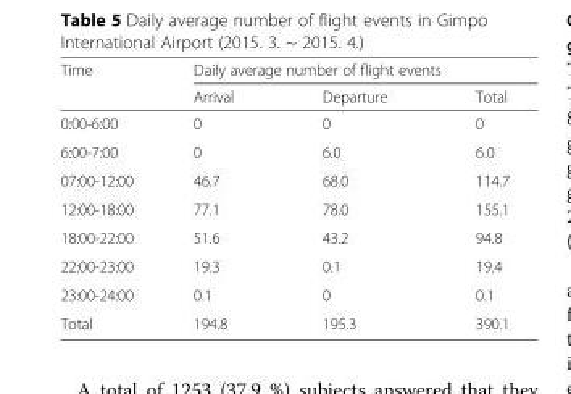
<table><thead><tr><td rowspan="2">Time</td><td colspan="3">Daily average number of flight events</td></tr><tr><td>Arrival</td><td>Departure</td><td>Total</td></tr></thead><tbody><tr><td>0:00-6:00</td><td>0</td><td>0</td><td>0</td></tr><tr><td>6:00-7:00</td><td>0</td><td>6.0</td><td>6.0</td></tr><tr><td>07:00-12:00</td><td>46.7</td><td>68.0</td><td>114.7</td></tr><tr><td>12:00-18:00</td><td>77.1</td><td>78.0</td><td>155.1</td></tr><tr><td>18:00-22:00</td><td>51.6</td><td>43.2</td><td>94.8</td></tr><tr><td>22:00-23:00</td><td>19.3</td><td>0.1</td><td>19.4</td></tr><tr><td>23:00-24:00</td><td>0.1</td><td>0</td><td>0.1</td></tr><tr><td>Total</td><td>194.8</td><td>195.3</td><td>390.1</td></tr></tbody></table>